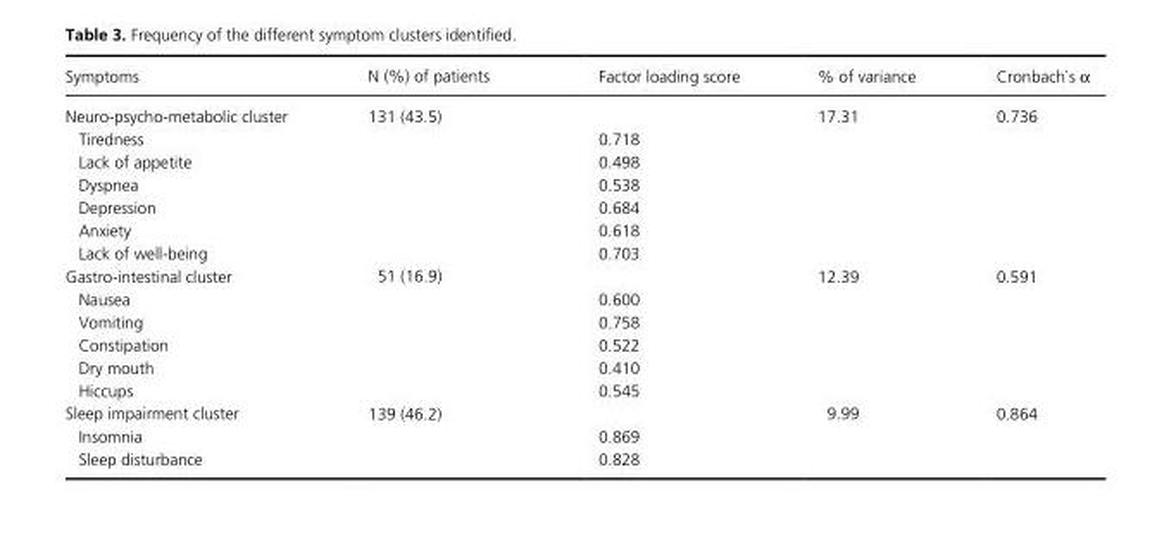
<table><thead><tr><td>Symptoms</td><td>N (%) of patients</td><td>Factor loading score</td><td>% of variance</td><td>Cronbach`s α</td></tr></thead><tbody><tr><td>Neuro- psycho- metabolic cluster</td><td>131 (43.5)</td><td></td><td>17.31</td><td>0.736</td></tr><tr><td>Tiredness</td><td></td><td>0.718</td><td></td><td></td></tr><tr><td>Lack of appetite</td><td></td><td>0.498</td><td></td><td></td></tr><tr><td>Dyspnea</td><td></td><td>0.538</td><td></td><td></td></tr><tr><td>Depression</td><td></td><td>0.684</td><td></td><td></td></tr><tr><td>Anxiety</td><td></td><td>0.618</td><td></td><td></td></tr><tr><td>Lack of well- being</td><td></td><td>0.703</td><td></td><td></td></tr><tr><td>Gastro- intestinal cluster</td><td>51 (16.9)</td><td></td><td>12.39</td><td>0.591</td></tr><tr><td>Nausea</td><td></td><td>0.600</td><td></td><td></td></tr><tr><td>Vomiting</td><td></td><td>0.758</td><td></td><td></td></tr><tr><td>Constipation</td><td></td><td>0.522</td><td></td><td></td></tr><tr><td>Dry mouth</td><td></td><td>0.410</td><td></td><td></td></tr><tr><td>Hiccups</td><td></td><td>0.545</td><td></td><td></td></tr><tr><td>Sleep impairment cluster</td><td>139 (46.2)</td><td></td><td>9.99</td><td>0.864</td></tr><tr><td>Insomnia</td><td></td><td>0.869</td><td></td><td></td></tr><tr><td>Sleep disturbance</td><td></td><td>0.828</td><td></td><td></td></tr></tbody></table>